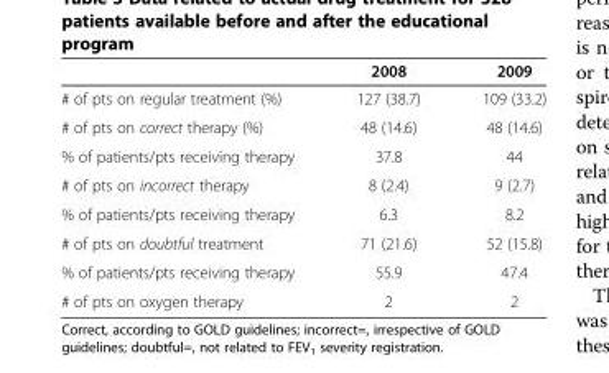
<table><thead><tr><td></td><td>2008</td><td>2009</td></tr></thead><tbody><tr><td># of pts on regular treatment (%)</td><td>127 (38.7)</td><td>109 (33.2)</td></tr><tr><td># of pts on correct therapy (%)</td><td>48 (14.6)</td><td>48 (14.6)</td></tr><tr><td>% of patients/pts receiving therapy</td><td>37.8</td><td>44</td></tr><tr><td># of pts on incorrect therapy</td><td>8 (2.4)</td><td>9 (2.7)</td></tr><tr><td>% of patients/pts receiving therapy</td><td>6.3</td><td>8.2</td></tr><tr><td># of pts on doubtful treatment</td><td>71 (21.6)</td><td>52 (15.8)</td></tr><tr><td>% of patients/pts receiving therapy</td><td>55.9</td><td>47.4</td></tr><tr><td># of pts on oxygen therapy</td><td>2</td><td>2</td></tr></tbody></table>